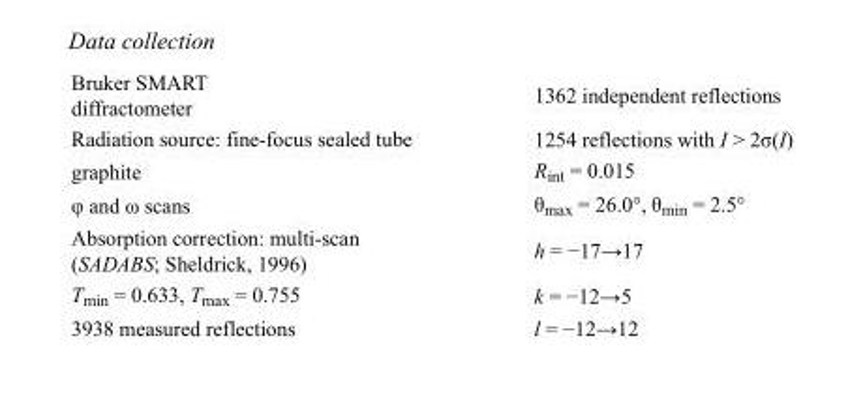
<table><tbody><tr><td>Bruker SMART diffractometer</td><td>1362 independent reflections</td></tr><tr><td>Radiation source: fine-focus sealed tube</td><td>1254 reflections with I &gt; 2σ(I)</td></tr><tr><td>graphite</td><td>R<sub>int</sub> = 0.015</td></tr><tr><td>φ and ω scans</td><td>θ<sub>max</sub> = 26.0°, θ<sub>min</sub> = 2.5°</td></tr><tr><td>Absorption correction: multi-scan (SADABS; Sheldrick, 1996)</td><td>h = −17→17</td></tr><tr><td>T<sub>min</sub> = 0.633, T<sub>max</sub> = 0.755</td><td>k = −12→5</td></tr><tr><td>3938 measured reflections</td><td>l = −12→12</td></tr></tbody></table>